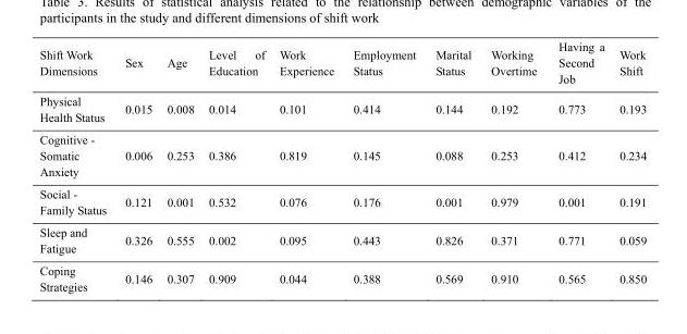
<table><thead><tr><td>Shift Work Dimensions</td><td>Sex</td><td>Age</td><td>Level of Education</td><td>Work Experience</td><td>Employment Status</td><td>Marital Status</td><td>Working Overtime</td><td>Having a Second Job</td><td>Work Shift</td></tr></thead><tbody><tr><td>Physical Health Status</td><td>0.015</td><td>0.008</td><td>0.014</td><td>0.101</td><td>0.414</td><td>0.144</td><td>0.192</td><td>0.773</td><td>0.193</td></tr><tr><td>Cognitive - Somatic Anxiety</td><td>0.006</td><td>0.253</td><td>0.386</td><td>0.819</td><td>0.145</td><td>0.088</td><td>0.253</td><td>0.412</td><td>0.234</td></tr><tr><td>Social - Family Status</td><td>0.121</td><td>0.001</td><td>0.532</td><td>0.076</td><td>0.176</td><td>0.001</td><td>0.979</td><td>0.001</td><td>0.191</td></tr><tr><td>Sleep and Fatigue</td><td>0.326</td><td>0.555</td><td>0.002</td><td>0.095</td><td>0.443</td><td>0.826</td><td>0.371</td><td>0.771</td><td>0.059</td></tr><tr><td>Coping Strategies</td><td>0.146</td><td>0.307</td><td>0.909</td><td>0.044</td><td>0.388</td><td>0.569</td><td>0.910</td><td>0.565</td><td>0.850</td></tr></tbody></table>